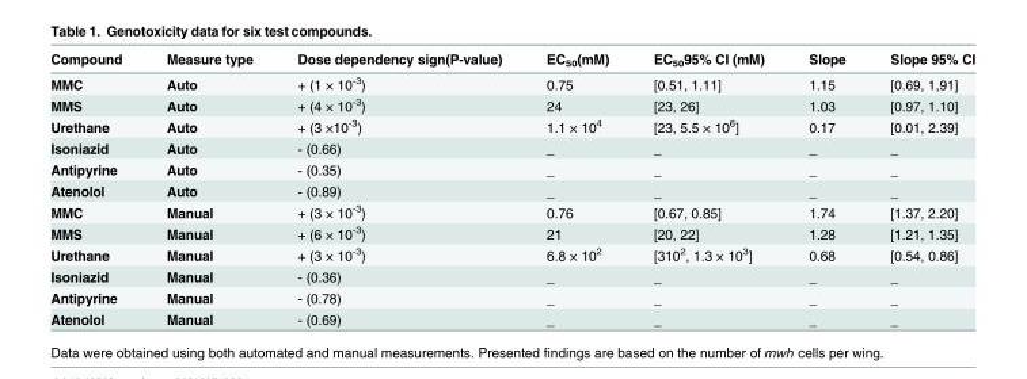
<table><thead><tr><td>Compound</td><td>Measure type</td><td>Dose dependency sign(P-value)</td><td>EC<sub>50</sub>(mM)</td><td>EC<sub>50</sub>95% CI (mM)</td><td>Slope</td><td>Slope 95% CI</td></tr></thead><tbody><tr><td>MMC</td><td>Auto</td><td>+ (1 × 10<sup>-3</sup>)</td><td>0.75</td><td>[0.51, 1.11]</td><td>1.15</td><td>[0.69, 1,91]</td></tr><tr><td>MMS</td><td>Auto</td><td>+ (4 × 10<sup>-3</sup>)</td><td>24</td><td>[23, 26]</td><td>1.03</td><td>[0.97, 1.10]</td></tr><tr><td>Urethane</td><td>Auto</td><td>+ (3 ×10<sup>-3</sup>)</td><td>1.1 × 10<sup>4</sup></td><td>[23, 5.5 × 10<sup>6</sup>]</td><td>0.17</td><td>[0.01, 2.39]</td></tr><tr><td>Isoniazid</td><td>Auto</td><td>- (0.66)</td><td>_</td><td>_</td><td>_</td><td>_</td></tr><tr><td>Antipyrine</td><td>Auto</td><td>- (0.35)</td><td>_</td><td>_</td><td>_</td><td>_</td></tr><tr><td>Atenolol</td><td>Auto</td><td>- (0.89)</td><td>_</td><td>_</td><td>_</td><td>_</td></tr><tr><td>MMC</td><td>Manual</td><td>+ (3 × 10<sup>-3</sup>)</td><td>0.76</td><td>[0.67, 0.85]</td><td>1.74</td><td>[1.37, 2.20]</td></tr><tr><td>MMS</td><td>Manual</td><td>+ (6 × 10<sup>-3</sup>)</td><td>21</td><td>[20, 22]</td><td>1.28</td><td>[1.21, 1.35]</td></tr><tr><td>Urethane</td><td>Manual</td><td>+ (3 × 10<sup>-3</sup>)</td><td>6.8 × 10<sup>2</sup></td><td>[310<sup>2</sup>, 1.3 × 10<sup>3</sup>]</td><td>0.68</td><td>[0.54, 0.86]</td></tr><tr><td>Isoniazid</td><td>Manual</td><td>- (0.36)</td><td>_</td><td>_</td><td>_</td><td>_</td></tr><tr><td>Antipyrine</td><td>Manual</td><td>- (0.78)</td><td>_</td><td>_</td><td>_</td><td>_</td></tr><tr><td>Atenolol</td><td>Manual</td><td>- (0.69)</td><td>_</td><td>_</td><td>_</td><td>_</td></tr></tbody></table>